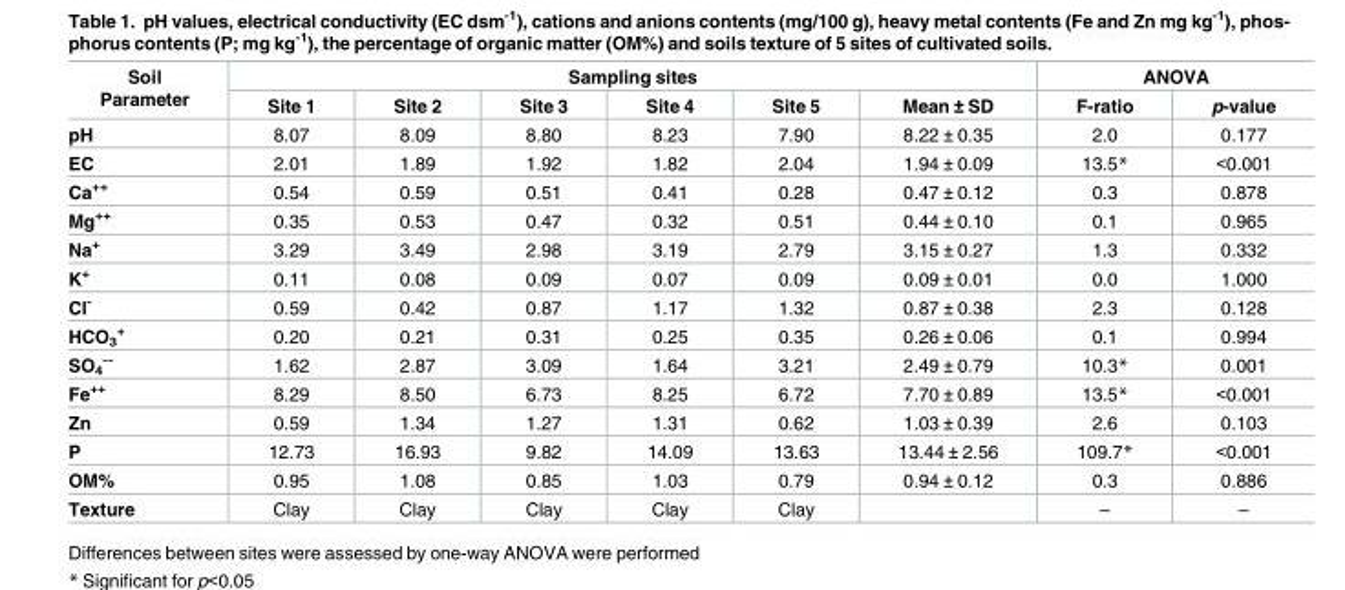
<table><thead><tr><td rowspan="2">Soil Parameter</td><td colspan="6">Sampling sites</td><td colspan="2">ANOVA</td></tr><tr><td>Site 1</td><td>Site 2</td><td>Site 3</td><td>Site 4</td><td>Site 5</td><td>Mean ± SD</td><td>F-ratio</td><td>p-value</td></tr></thead><tbody><tr><td>pH</td><td>8.07</td><td>8.09</td><td>8.80</td><td>8.23</td><td>7.90</td><td>8.22 ± 0.35</td><td>2.0</td><td>0.177</td></tr><tr><td>EC</td><td>2.01</td><td>1.89</td><td>1.92</td><td>1.82</td><td>2.04</td><td>1.94 ± 0.09</td><td>13.5*</td><td>&lt;0.001</td></tr><tr><td>Ca<sup>++</sup></td><td>0.54</td><td>0.59</td><td>0.51</td><td>0.41</td><td>0.28</td><td>0.47 ± 0.12</td><td>0.3</td><td>0.878</td></tr><tr><td>Mg<sup>++</sup></td><td>0.35</td><td>0.53</td><td>0.47</td><td>0.32</td><td>0.51</td><td>0.44 ± 0.10</td><td>0.1</td><td>0.965</td></tr><tr><td>Na<sup>+</sup></td><td>3.29</td><td>3.49</td><td>2.98</td><td>3.19</td><td>2.79</td><td>3.15 ± 0.27</td><td>1.3</td><td>0.332</td></tr><tr><td>K<sup>+</sup></td><td>0.11</td><td>0.08</td><td>0.09</td><td>0.07</td><td>0.09</td><td>0.09 ± 0.01</td><td>0.0</td><td>1.000</td></tr><tr><td>Cl<sup>-</sup></td><td>0.59</td><td>0.42</td><td>0.87</td><td>1.17</td><td>1.32</td><td>0.87 ± 0.38</td><td>2.3</td><td>0.128</td></tr><tr><td>HCO<sub>3</sub> <sup>+</sup></td><td>0.20</td><td>0.21</td><td>0.31</td><td>0.25</td><td>0.35</td><td>0.26 ± 0.06</td><td>0.1</td><td>0.994</td></tr><tr><td>SO<sub>4</sub> <sup>--</sup></td><td>1.62</td><td>2.87</td><td>3.09</td><td>1.64</td><td>3.21</td><td>2.49 ± 0.79</td><td>10.3*</td><td>0.001</td></tr><tr><td>Fe<sup>++</sup></td><td>8.29</td><td>8.50</td><td>6.73</td><td>8.25</td><td>6.72</td><td>7.70 ± 0.89</td><td>13.5*</td><td>&lt;0.001</td></tr><tr><td>Zn</td><td>0.59</td><td>1.34</td><td>1.27</td><td>1.31</td><td>0.62</td><td>1.03 ± 0.39</td><td>2.6</td><td>0.103</td></tr><tr><td>P</td><td>12.73</td><td>16.93</td><td>9.82</td><td>14.09</td><td>13.63</td><td>13.44 ± 2.56</td><td>109.7*</td><td>&lt;0.001</td></tr><tr><td>OM%</td><td>0.95</td><td>1.08</td><td>0.85</td><td>1.03</td><td>0.79</td><td>0.94 ± 0.12</td><td>0.3</td><td>0.886</td></tr><tr><td>Texture</td><td>Clay</td><td>Clay</td><td>Clay</td><td>Clay</td><td>Clay</td><td></td><td>–</td><td>–</td></tr></tbody></table>